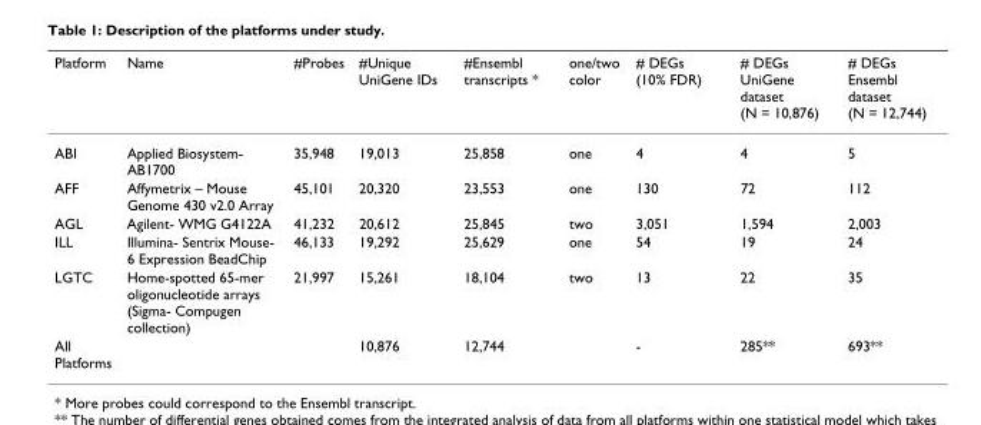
<table><thead><tr><td>Platform</td><td>Name</td><td>#Probes</td><td>#Unique UniGene IDs</td><td>#Ensembl transcripts *</td><td>one/two color</td><td># DEGs (10% FDR)</td><td># DEGs UniGene dataset (N = 10,876)</td><td># DEGs Ensembl dataset (N = 12,744)</td></tr></thead><tbody><tr><td>ABI</td><td>Applied Biosystem- AB1700</td><td>35,948</td><td>19,013</td><td>25,858</td><td>one</td><td>4</td><td>4</td><td>5</td></tr><tr><td>AFF</td><td>Affymetrix – Mouse Genome 430 v2.0 Array</td><td>45,101</td><td>20,320</td><td>23,553</td><td>one</td><td>130</td><td>72</td><td>112</td></tr><tr><td>AGL</td><td>Agilent- WMG G4122A</td><td>41,232</td><td>20,612</td><td>25,845</td><td>two</td><td>3,051</td><td>1,594</td><td>2,003</td></tr><tr><td>ILL</td><td>Illumina- Sentrix Mouse- 6 Expression BeadChip</td><td>46,133</td><td>19,292</td><td>25,629</td><td>one</td><td>54</td><td>19</td><td>24</td></tr><tr><td>LGTC</td><td>Home-spotted 65-mer oligonucleotide arrays (Sigma- Compugen collection)</td><td>21,997</td><td>15,261</td><td>18,104</td><td>two</td><td>13</td><td>22</td><td>35</td></tr><tr><td>All Platforms</td><td></td><td></td><td>10,876</td><td>12,744</td><td></td><td>-</td><td>285**</td><td>693**</td></tr></tbody></table>